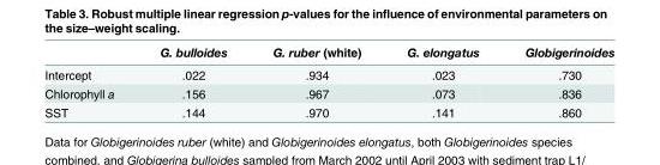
<table><thead><tr><td></td><td>G. bulloides</td><td>G. ruber (white)</td><td>G. elongatus</td><td>Globigerinoides</td></tr></thead><tbody><tr><td>Intercept</td><td>.022</td><td>.934</td><td>.023</td><td>.730</td></tr><tr><td>Chlorophyll a</td><td>.156</td><td>.967</td><td>.073</td><td>.836</td></tr><tr><td>SST</td><td>.144</td><td>.970</td><td>.141</td><td>.860</td></tr></tbody></table>